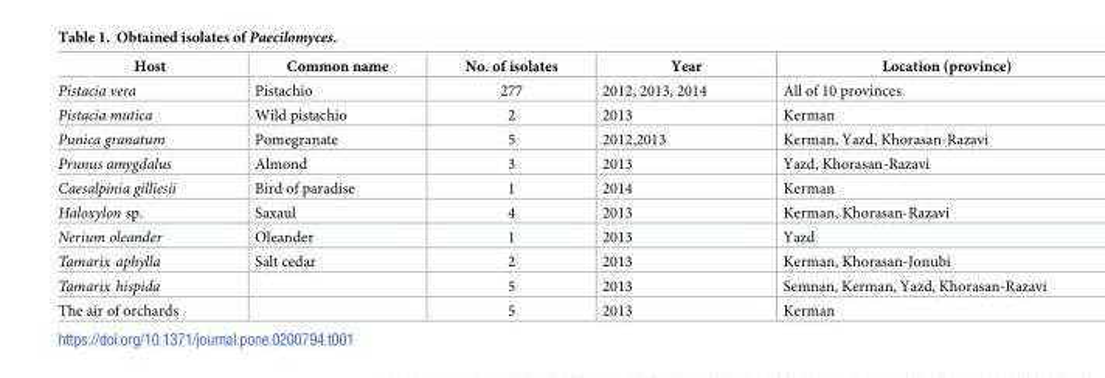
<table><thead><tr><td>Host</td><td>Common name</td><td>No. of isolates</td><td>Year</td><td>Location (province)</td></tr></thead><tbody><tr><td>Pistacia vera</td><td>Pistachio</td><td>277</td><td>2012, 2013, 2014</td><td>All of 10 provinces</td></tr><tr><td>Pistacia mutica</td><td>Wild pistachio</td><td>2</td><td>2013</td><td>Kerman</td></tr><tr><td>Punica granatum</td><td>Pomegranate</td><td>5</td><td>2012,2013</td><td>Kerman, Yazd, Khorasan-Razavi</td></tr><tr><td>Prunus amygdalus</td><td>Almond</td><td>3</td><td>2013</td><td>Yazd, Khorasan-Razavi</td></tr><tr><td>Caesalpinia gilliesii</td><td>Bird of paradise</td><td>1</td><td>2014</td><td>Kerman</td></tr><tr><td>Haloxylon sp.</td><td>Saxaul</td><td>4</td><td>2013</td><td>Kerman, Khorasan-Razavi</td></tr><tr><td>Nerium oleander</td><td>Oleander</td><td>1</td><td>2013</td><td>Yazd</td></tr><tr><td>Tamarix aphylla</td><td>Salt cedar</td><td>2</td><td>2013</td><td>Kerman, Khorasan-Jonubi</td></tr><tr><td>Tamarix hispida</td><td></td><td>5</td><td>2013</td><td>Semnan, Kerman, Yazd, Khorasan-Razavi</td></tr><tr><td>The air of orchards</td><td></td><td>5</td><td>2013</td><td>Kerman</td></tr></tbody></table>